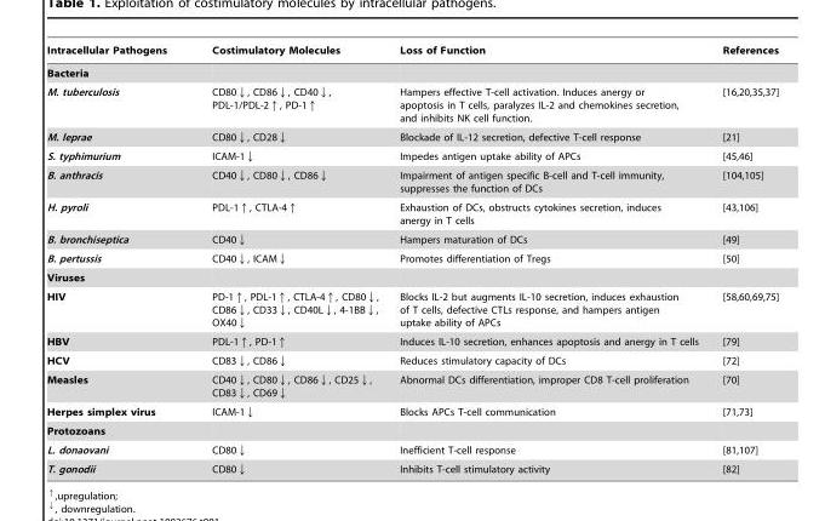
<table><thead><tr><td>Intracellular Pathogens</td><td>Costimulatory Molecules</td><td>Loss of Function</td><td>References</td></tr></thead><tbody><tr><td colspan="4">Bacteria</td></tr><tr><td>M. tuberculosis</td><td>CD80↓, CD86↓, CD40↓, PDL-1/PDL-2↑, PD-1↑</td><td>Hampers effective T-cell activation. Induces anergy or apoptosis in T cells, paralyzes IL-2 and chemokines secretion, and inhibits NK cell function.</td><td>[16,20,35,37]</td></tr><tr><td>M. leprae</td><td>CD80↓, CD28↓</td><td>Blockade of IL-12 secretion, defective T-cell response</td><td>[21]</td></tr><tr><td>S. typhimurium</td><td>ICAM-1↓</td><td>Impedes antigen uptake ability of APCs</td><td>[45,46]</td></tr><tr><td>B. anthracis</td><td>CD40↓, CD80↓, CD86↓</td><td>Impairment of antigen specific B-cell and T-cell immunity, suppresses the function of DCs</td><td>[104,105]</td></tr><tr><td>H. pyroli</td><td>PDL-1↑, CTLA-4↑</td><td>Exhaustion of DCs, obstructs cytokines secretion, induces anergy in T cells</td><td>[43,106]</td></tr><tr><td>B. bronchiseptica</td><td>CD40↓</td><td>Hampers maturation of DCs</td><td>[49]</td></tr><tr><td>B. pertussis</td><td>CD40↓, ICAM↓</td><td>Promotes differentiation of Tregs</td><td>[50]</td></tr><tr><td colspan="4">Viruses</td></tr><tr><td>HIV</td><td>PD-1↑, PDL-1↑, CTLA-4↑, CD80↓, CD86↓, CD33↓, CD40L↓, 4-1BB↓, OX40↓</td><td>Blocks IL-2 but augments IL-10 secretion, induces exhaustion of T cells, defective CTLs response, and hampers antigen uptake ability of APCs</td><td>[58,60,69,75]</td></tr><tr><td>HBV</td><td>PDL-1↑, PD-1↑</td><td>Induces IL-10 secretion, enhances apoptosis and anergy in T cells</td><td>[79]</td></tr><tr><td>HCV</td><td>CD83↓, CD86↓</td><td>Reduces stimulatory capacity of DCs</td><td>[72]</td></tr><tr><td>Measles</td><td>CD40↓, CD80↓, CD86↓, CD25↓, CD83↓, CD69↓</td><td>Abnormal DCs differentiation, improper CD8 T-cell proliferation</td><td>[70]</td></tr><tr><td>Herpes simplex virus</td><td>ICAM-1↓</td><td>Blocks APCs T-cell communication</td><td>[71,73]</td></tr><tr><td colspan="4">Protozoans</td></tr><tr><td>L. donaovani</td><td>CD80↓</td><td>Inefficient T-cell response</td><td>[81,107]</td></tr><tr><td>T. gonodii</td><td>CD80↓</td><td>Inhibits T-cell stimulatory activity</td><td>[82]</td></tr></tbody></table>